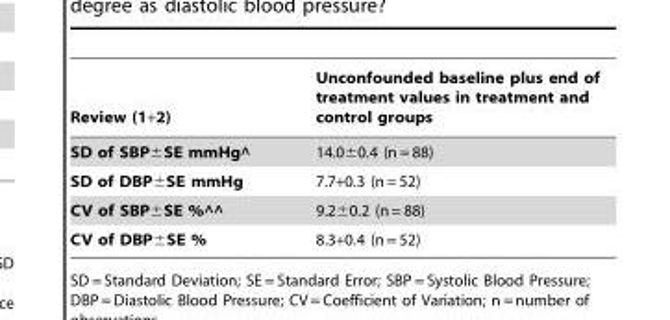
<table><thead><tr><td>Review (1+2)</td><td>Unconfounded baseline plus end of treatment values in treatment and control groups</td></tr></thead><tbody><tr><td>SD of SBP±SE mmHg∧</td><td>14.0±0.4 (n = 88)</td></tr><tr><td>SD of DBP±SE mmHg</td><td>7.7+0.3 (n = 52)</td></tr><tr><td>CV of SBP±SE %∧∧</td><td>9.2±0.2 (n = 88)</td></tr><tr><td>CV of DBP±SE %</td><td>8.3+0.4 (n = 52)</td></tr></tbody></table>